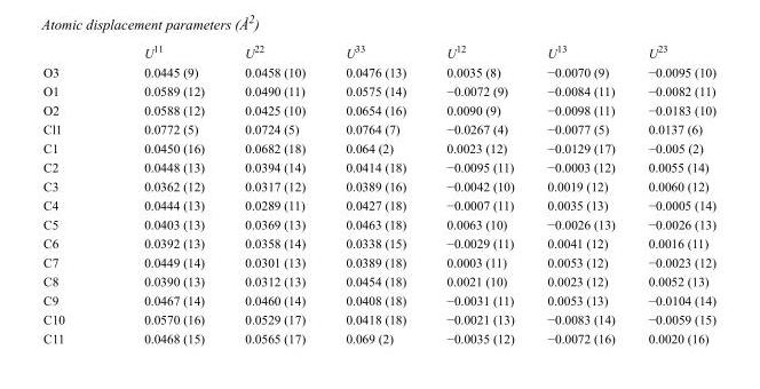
<table><thead><tr><td></td><td>U<sup>11</sup></td><td>U<sup>22</sup></td><td>U<sup>33</sup></td><td>U<sup>12</sup></td><td>U<sup>13</sup></td><td>U<sup>23</sup></td></tr></thead><tbody><tr><td>O3</td><td>0.0445 (9)</td><td>0.0458 (10)</td><td>0.0476 (13)</td><td>0.0035 (8)</td><td>−0.0070 (9)</td><td>−0.0095 (10)</td></tr><tr><td>O1</td><td>0.0589 (12)</td><td>0.0490 (11)</td><td>0.0575 (14)</td><td>−0.0072 (9)</td><td>−0.0084 (11)</td><td>−0.0082 (11)</td></tr><tr><td>O2</td><td>0.0588 (12)</td><td>0.0425 (10)</td><td>0.0654 (16)</td><td>0.0090 (9)</td><td>−0.0098 (11)</td><td>−0.0183 (10)</td></tr><tr><td>Cl1</td><td>0.0772 (5)</td><td>0.0724 (5)</td><td>0.0764 (7)</td><td>−0.0267 (4)</td><td>−0.0077 (5)</td><td>0.0137 (6)</td></tr><tr><td>C1</td><td>0.0450 (16)</td><td>0.0682 (18)</td><td>0.064 (2)</td><td>0.0023 (12)</td><td>−0.0129 (17)</td><td>−0.005 (2)</td></tr><tr><td>C2</td><td>0.0448 (13)</td><td>0.0394 (14)</td><td>0.0414 (18)</td><td>−0.0095 (11)</td><td>−0.0003 (12)</td><td>0.0055 (14)</td></tr><tr><td>C3</td><td>0.0362 (12)</td><td>0.0317 (12)</td><td>0.0389 (16)</td><td>−0.0042 (10)</td><td>0.0019 (12)</td><td>0.0060 (12)</td></tr><tr><td>C4</td><td>0.0444 (13)</td><td>0.0289 (11)</td><td>0.0427 (18)</td><td>−0.0007 (11)</td><td>0.0035 (13)</td><td>−0.0005 (14)</td></tr><tr><td>C5</td><td>0.0403 (13)</td><td>0.0369 (13)</td><td>0.0463 (18)</td><td>0.0063 (10)</td><td>−0.0026 (13)</td><td>−0.0026 (13)</td></tr><tr><td>C6</td><td>0.0392 (13)</td><td>0.0358 (14)</td><td>0.0338 (15)</td><td>−0.0029 (11)</td><td>0.0041 (12)</td><td>0.0016 (11)</td></tr><tr><td>C7</td><td>0.0449 (14)</td><td>0.0301 (13)</td><td>0.0389 (18)</td><td>0.0003 (11)</td><td>0.0053 (12)</td><td>−0.0023 (12)</td></tr><tr><td>C8</td><td>0.0390 (13)</td><td>0.0312 (13)</td><td>0.0454 (18)</td><td>0.0021 (10)</td><td>0.0023 (12)</td><td>0.0052 (13)</td></tr><tr><td>C9</td><td>0.0467 (14)</td><td>0.0460 (14)</td><td>0.0408 (18)</td><td>−0.0031 (11)</td><td>0.0053 (13)</td><td>−0.0104 (14)</td></tr><tr><td>C10</td><td>0.0570 (16)</td><td>0.0529 (17)</td><td>0.0418 (18)</td><td>−0.0021 (13)</td><td>−0.0083 (14)</td><td>−0.0059 (15)</td></tr><tr><td>C11</td><td>0.0468 (15)</td><td>0.0565 (17)</td><td>0.069 (2)</td><td>−0.0035 (12)</td><td>−0.0072 (16)</td><td>0.0020 (16)</td></tr></tbody></table>